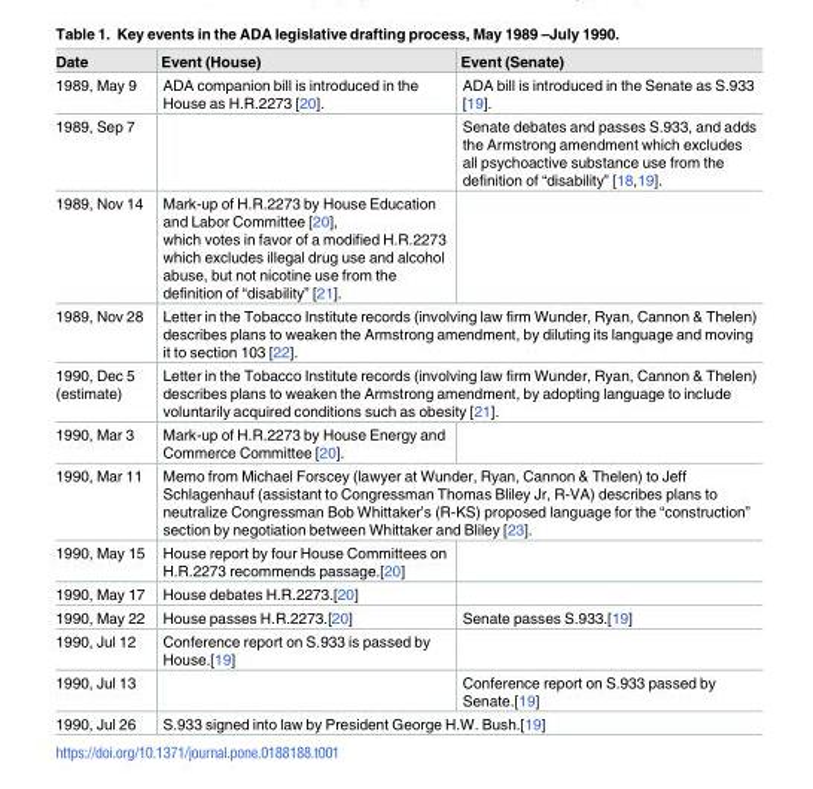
<table><thead><tr><td>Date</td><td>Event (House)</td><td>Event (Senate)</td></tr></thead><tbody><tr><td>1989, May 9</td><td>ADA companion bill is introduced in the House as H.R.2273 [20].</td><td>ADA bill is introduced in the Senate as S.933 [19].</td></tr><tr><td>1989, Sep 7</td><td></td><td>Senate debates and passes S.933, and adds the Armstrong amendment which excludes all psychoactive substance use from the definition of “disability” [18,19].</td></tr><tr><td>1989, Nov 14</td><td>Mark-up of H.R.2273 by House Education and Labor Committee [20], which votes in favor of a modified H.R.2273 which excludes illegal drug use and alcohol abuse, but not nicotine use from the definition of “disability” [21].</td><td></td></tr><tr><td>1989, Nov 28</td><td colspan="2">Letter in the Tobacco Institute records (involving law firm Wunder, Ryan, Cannon &amp; Thelen) describes plans to weaken the Armstrong amendment, by diluting its language and moving it to section 103 [22].</td></tr><tr><td>1990, Dec 5 (estimate)</td><td colspan="2">Letter in the Tobacco Institute records (involving law firm Wunder, Ryan, Cannon &amp; Thelen) describes plans to weaken the Armstrong amendment, by adopting language to include voluntarily acquired conditions such as obesity [21].</td></tr><tr><td>1990, Mar 3</td><td>Mark-up of H.R.2273 by House Energy and Commerce Committee [20].</td><td></td></tr><tr><td>1990, Mar 11</td><td colspan="2">Memo from Michael Forscey (lawyer at Wunder, Ryan, Cannon &amp; Thelen) to Jeff Schlagenhauf (assistant to Congressman Thomas Bliley Jr, R-VA) describes plans to neutralize Congressman Bob Whittaker’s (R-KS) proposed language for the “construction” section by negotiation between Whittaker and Bliley [23].</td></tr><tr><td>1990, May 15</td><td>House report by four House Committees on H.R.2273 recommends passage.[20]</td><td></td></tr><tr><td>1990, May 17</td><td>House debates H.R.2273.[20]</td><td></td></tr><tr><td>1990, May 22</td><td>House passes H.R.2273.[20]</td><td>Senate passes S.933.[19]</td></tr><tr><td>1990, Jul 12</td><td>Conference report on S.933 is passed by House.[19]</td><td></td></tr><tr><td>1990, Jul 13</td><td></td><td>Conference report on S.933 passed by Senate.[19]</td></tr><tr><td>1990, Jul 26</td><td colspan="2">S.933 signed into law by President George H.W. Bush.[19]</td></tr></tbody></table>